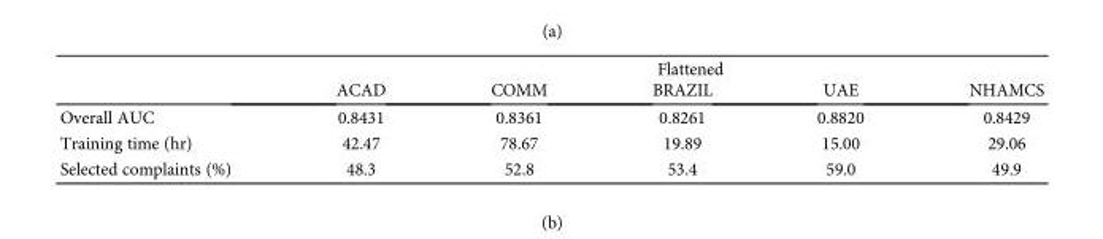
<table><thead><tr><td rowspan="2"></td><td colspan="5">Flattened</td></tr><tr><td>ACAD</td><td>COMM</td><td>BRAZIL</td><td>UAE</td><td>NHAMCS</td></tr></thead><tbody><tr><td>Overall AUC</td><td>0.8431</td><td>0.8361</td><td>0.8261</td><td>0.8820</td><td>0.8429</td></tr><tr><td>Training time (hr)</td><td>42.47</td><td>78.67</td><td>19.89</td><td>15.00</td><td>29.06</td></tr><tr><td>Selected complaints (%)</td><td>48.3</td><td>52.8</td><td>53.4</td><td>59.0</td><td>49.9</td></tr></tbody></table>